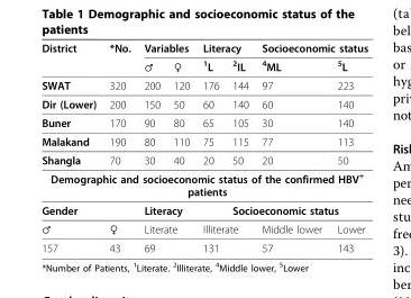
<table><thead><tr><td rowspan="2">District</td><td rowspan="2">*No.</td><td colspan="2">Variables</td><td colspan="2">Literacy</td><td colspan="2">Socioeconomic status</td></tr><tr><td>♂</td><td>♀</td><td><sup>1</sup>L</td><td><sup>2</sup>IL</td><td><sup>4</sup>ML</td><td><sup>5</sup>L</td></tr></thead><tbody><tr><td>SWAT</td><td>320</td><td>200</td><td>120</td><td>176</td><td>144</td><td>97</td><td>223</td></tr><tr><td>Dir (Lower)</td><td>200</td><td>150</td><td>50</td><td>60</td><td>140</td><td>60</td><td>140</td></tr><tr><td>Buner</td><td>170</td><td>90</td><td>80</td><td>65</td><td>105</td><td>30</td><td>140</td></tr><tr><td>Malakand</td><td>190</td><td>80</td><td>110</td><td>75</td><td>115</td><td>77</td><td>113</td></tr><tr><td>Shangla</td><td>70</td><td>30</td><td>40</td><td>20</td><td>50</td><td>20</td><td>50</td></tr><tr><td colspan="8">Demographic and socioeconomic status of the confirmed HBV<sup>+</sup> patients</td></tr><tr><td colspan="2">Gender</td><td colspan="3">Literacy</td><td colspan="3">Socioeconomic status</td></tr><tr><td>♂</td><td>♀</td><td colspan="2">Literate</td><td colspan="2">Illiterate</td><td>Middle lower</td><td>Lower</td></tr><tr><td>157</td><td>43</td><td colspan="2">69</td><td colspan="2">131</td><td>57</td><td>143</td></tr></tbody></table>